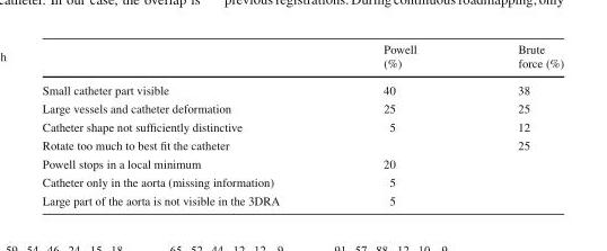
<table><thead><tr><td></td><td>Powell (%)</td><td>Brute force (%)</td></tr></thead><tbody><tr><td>Small catheter part visible</td><td>40</td><td>38</td></tr><tr><td>Large vessels and catheter deformation</td><td>25</td><td>25</td></tr><tr><td>Catheter shape not sufficiently distinctive</td><td>5</td><td>12</td></tr><tr><td>Rotate too much to best fit the catheter</td><td></td><td>25</td></tr><tr><td>Powell stops in a local minimum</td><td>20</td><td></td></tr><tr><td>Catheter only in the aorta (missing information)</td><td>5</td><td></td></tr><tr><td>Large part of the aorta is not visible in the 3DRA</td><td>5</td><td></td></tr></tbody></table>